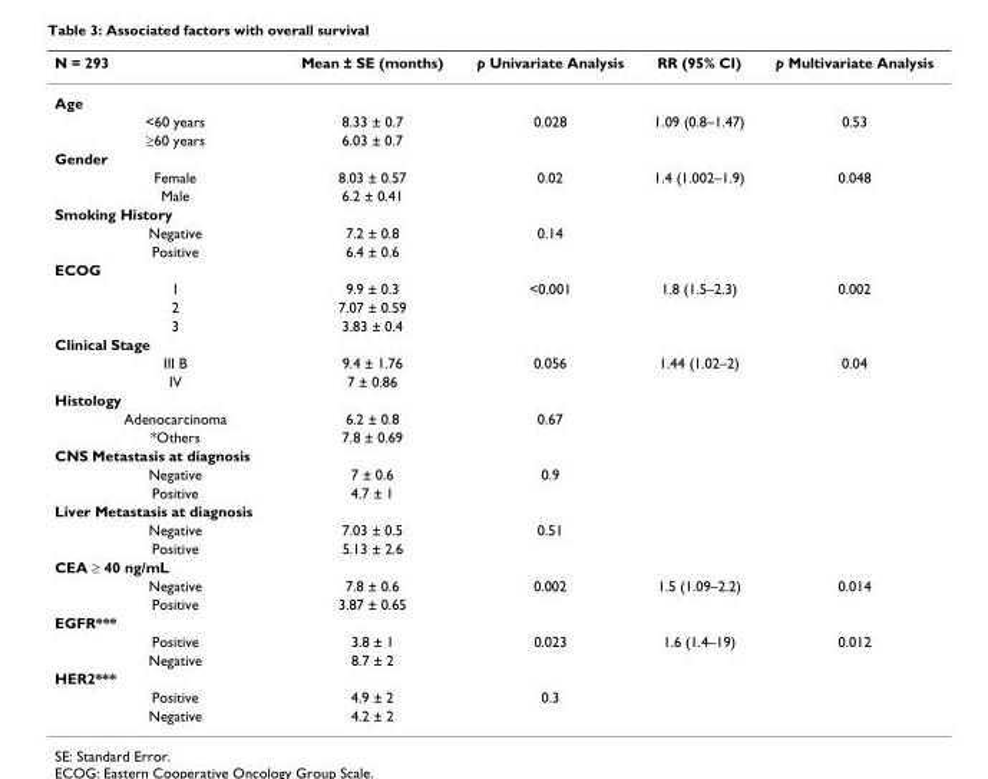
<table><thead><tr><td>N = 293</td><td>Mean ± SE (months)</td><td>p Univariate Analysis</td><td>RR (95% CI)</td><td>p Multivariate Analysis</td></tr></thead><tbody><tr><td colspan="5">Age</td></tr><tr><td>&lt;60 years</td><td>8.33 ± 0.7</td><td>0.028</td><td>1.09 (0.8–1.47)</td><td>0.53</td></tr><tr><td>≥60 years</td><td>6.03 ± 0.7</td><td></td><td></td><td></td></tr><tr><td colspan="5">Gender</td></tr><tr><td>Female</td><td>8.03 ± 0.57</td><td>0.02</td><td>1.4 (1.002–1.9)</td><td>0.048</td></tr><tr><td>Male</td><td>6.2 ± 0.41</td><td></td><td></td><td></td></tr><tr><td colspan="5">Smoking History</td></tr><tr><td>Negative</td><td>7.2 ± 0.8</td><td>0.14</td><td></td><td></td></tr><tr><td>Positive</td><td>6.4 ± 0.6</td><td></td><td></td><td></td></tr><tr><td colspan="5">ECOG</td></tr><tr><td>1</td><td>9.9 ± 0.3</td><td>&lt;0.001</td><td>1.8 (1.5–2.3)</td><td>0.002</td></tr><tr><td>2</td><td>7.07 ± 0.59</td><td></td><td></td><td></td></tr><tr><td>3</td><td>3.83 ± 0.4</td><td></td><td></td><td></td></tr><tr><td colspan="5">Clinical Stage</td></tr><tr><td>III B</td><td>9.4 ± 1.76</td><td>0.056</td><td>1.44 (1.02–2)</td><td>0.04</td></tr><tr><td>IV</td><td>7 ± 0.86</td><td></td><td></td><td></td></tr><tr><td colspan="5">Histology</td></tr><tr><td>Adenocarcinoma</td><td>6.2 ± 0.8</td><td>0.67</td><td></td><td></td></tr><tr><td>*Others</td><td>7.8 ± 0.69</td><td></td><td></td><td></td></tr><tr><td colspan="5">CNS Metastasis at diagnosis</td></tr><tr><td>Negative</td><td>7 ± 0.6</td><td>0.9</td><td></td><td></td></tr><tr><td>Positive</td><td>4.7 ± 1</td><td></td><td></td><td></td></tr><tr><td colspan="5">Liver Metastasis at diagnosis</td></tr><tr><td>Negative</td><td>7.03 ± 0.5</td><td>0.51</td><td></td><td></td></tr><tr><td>Positive</td><td>5.13 ± 2.6</td><td></td><td></td><td></td></tr><tr><td colspan="5">CEA ≥ 40 ng/mL</td></tr><tr><td>Negative</td><td>7.8 ± 0.6</td><td>0.002</td><td>1.5 (1.09–2.2)</td><td>0.014</td></tr><tr><td>Positive</td><td>3.87 ± 0.65</td><td></td><td></td><td></td></tr><tr><td colspan="5">EGFR***</td></tr><tr><td>Positive</td><td>3.8 ± 1</td><td>0.023</td><td>1.6 (1.4–19)</td><td>0.012</td></tr><tr><td>Negative</td><td>8.7 ± 2</td><td></td><td></td><td></td></tr><tr><td colspan="5">HER2***</td></tr><tr><td>Positive</td><td>4.9 ± 2</td><td>0.3</td><td></td><td></td></tr><tr><td>Negative</td><td>4.2 ± 2</td><td></td><td></td><td></td></tr></tbody></table>